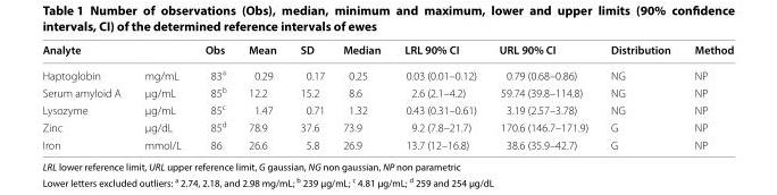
<table><thead><tr><td>Analyte</td><td></td><td>Obs</td><td>Mean</td><td>SD</td><td>Median</td><td>LRL 90% CI</td><td>URL 90% CI</td><td>Distribution</td><td>Method</td></tr></thead><tbody><tr><td>Haptoglobin</td><td>mg/mL</td><td>83<sup>a</sup></td><td>0.29</td><td>0.17</td><td>0.25</td><td>0.03 (0.01–0.12)</td><td>0.79 (0.68–0.86)</td><td>NG</td><td>NP</td></tr><tr><td>Serum amyloid A</td><td>µg/mL</td><td>85<sup>b</sup></td><td>12.2</td><td>15.2</td><td>8.6</td><td>2.6 (2.1–4.2)</td><td>59.74 (39.8–114.8)</td><td>NG</td><td>NP</td></tr><tr><td>Lysozyme</td><td>µg/mL</td><td>85<sup>c</sup></td><td>1.47</td><td>0.71</td><td>1.32</td><td>0.43 (0.31–0.61)</td><td>3.19 (2.57–3.78)</td><td>NG</td><td>NP</td></tr><tr><td>Zinc</td><td>µg/dL</td><td>85<sup>d</sup></td><td>78.9</td><td>37.6</td><td>73.9</td><td>9.2 (7.8–21.7)</td><td>170.6 (146.7–171.9)</td><td>G</td><td>NP</td></tr><tr><td>Iron</td><td>mmol/L</td><td>86</td><td>26.6</td><td>5.8</td><td>26.9</td><td>13.7 (12–16.8)</td><td>38.6 (35.9–42.7)</td><td>G</td><td>NP</td></tr></tbody></table>